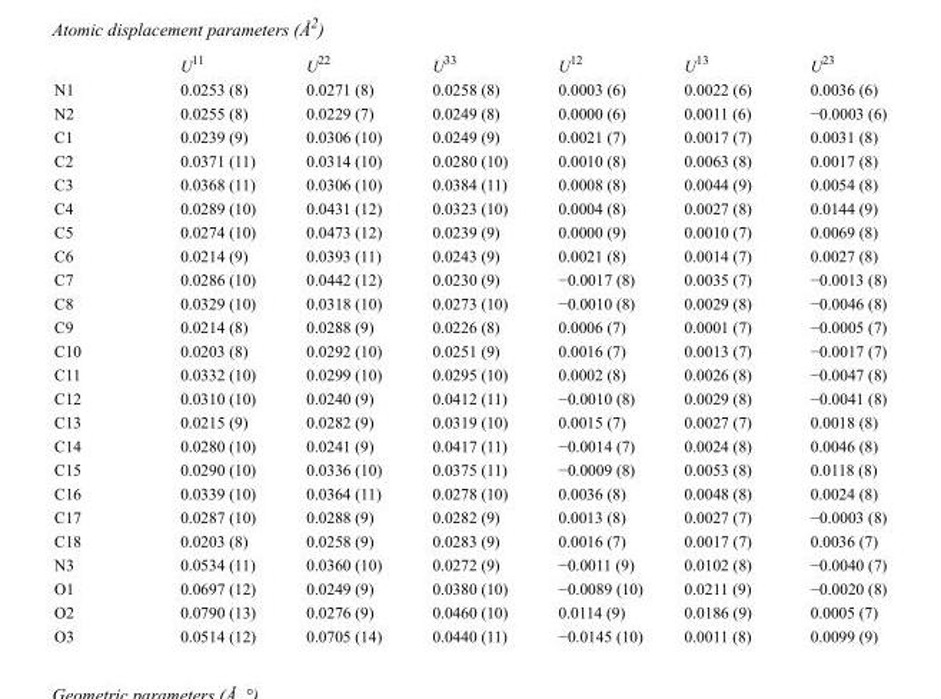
<table><thead><tr><td></td><td>U<sup>11</sup></td><td>U<sup>22</sup></td><td>U<sup>33</sup></td><td>U<sup>12</sup></td><td>U<sup>13</sup></td><td>U<sup>23</sup></td></tr></thead><tbody><tr><td>N1</td><td>0.0253 (8)</td><td>0.0271 (8)</td><td>0.0258 (8)</td><td>0.0003 (6)</td><td>0.0022 (6)</td><td>0.0036 (6)</td></tr><tr><td>N2</td><td>0.0255 (8)</td><td>0.0229 (7)</td><td>0.0249 (8)</td><td>0.0000 (6)</td><td>0.0011 (6)</td><td>−0.0003 (6)</td></tr><tr><td>C1</td><td>0.0239 (9)</td><td>0.0306 (10)</td><td>0.0249 (9)</td><td>0.0021 (7)</td><td>0.0017 (7)</td><td>0.0031 (8)</td></tr><tr><td>C2</td><td>0.0371 (11)</td><td>0.0314 (10)</td><td>0.0280 (10)</td><td>0.0010 (8)</td><td>0.0063 (8)</td><td>0.0017 (8)</td></tr><tr><td>C3</td><td>0.0368 (11)</td><td>0.0306 (10)</td><td>0.0384 (11)</td><td>0.0008 (8)</td><td>0.0044 (9)</td><td>0.0054 (8)</td></tr><tr><td>C4</td><td>0.0289 (10)</td><td>0.0431 (12)</td><td>0.0323 (10)</td><td>0.0004 (8)</td><td>0.0027 (8)</td><td>0.0144 (9)</td></tr><tr><td>C5</td><td>0.0274 (10)</td><td>0.0473 (12)</td><td>0.0239 (9)</td><td>0.0000 (9)</td><td>0.0010 (7)</td><td>0.0069 (8)</td></tr><tr><td>C6</td><td>0.0214 (9)</td><td>0.0393 (11)</td><td>0.0243 (9)</td><td>0.0021 (8)</td><td>0.0014 (7)</td><td>0.0027 (8)</td></tr><tr><td>C7</td><td>0.0286 (10)</td><td>0.0442 (12)</td><td>0.0230 (9)</td><td>−0.0017 (8)</td><td>0.0035 (7)</td><td>−0.0013 (8)</td></tr><tr><td>C8</td><td>0.0329 (10)</td><td>0.0318 (10)</td><td>0.0273 (10)</td><td>−0.0010 (8)</td><td>0.0029 (8)</td><td>−0.0046 (8)</td></tr><tr><td>C9</td><td>0.0214 (8)</td><td>0.0288 (9)</td><td>0.0226 (8)</td><td>0.0006 (7)</td><td>0.0001 (7)</td><td>−0.0005 (7)</td></tr><tr><td>C10</td><td>0.0203 (8)</td><td>0.0292 (10)</td><td>0.0251 (9)</td><td>0.0016 (7)</td><td>0.0013 (7)</td><td>−0.0017 (7)</td></tr><tr><td>C11</td><td>0.0332 (10)</td><td>0.0299 (10)</td><td>0.0295 (10)</td><td>0.0002 (8)</td><td>0.0026 (8)</td><td>−0.0047 (8)</td></tr><tr><td>C12</td><td>0.0310 (10)</td><td>0.0240 (9)</td><td>0.0412 (11)</td><td>−0.0010 (8)</td><td>0.0029 (8)</td><td>−0.0041 (8)</td></tr><tr><td>C13</td><td>0.0215 (9)</td><td>0.0282 (9)</td><td>0.0319 (10)</td><td>0.0015 (7)</td><td>0.0027 (7)</td><td>0.0018 (8)</td></tr><tr><td>C14</td><td>0.0280 (10)</td><td>0.0241 (9)</td><td>0.0417 (11)</td><td>−0.0014 (7)</td><td>0.0024 (8)</td><td>0.0046 (8)</td></tr><tr><td>C15</td><td>0.0290 (10)</td><td>0.0336 (10)</td><td>0.0375 (11)</td><td>−0.0009 (8)</td><td>0.0053 (8)</td><td>0.0118 (8)</td></tr><tr><td>C16</td><td>0.0339 (10)</td><td>0.0364 (11)</td><td>0.0278 (10)</td><td>0.0036 (8)</td><td>0.0048 (8)</td><td>0.0024 (8)</td></tr><tr><td>C17</td><td>0.0287 (10)</td><td>0.0288 (9)</td><td>0.0282 (9)</td><td>0.0013 (8)</td><td>0.0027 (7)</td><td>−0.0003 (8)</td></tr><tr><td>C18</td><td>0.0203 (8)</td><td>0.0258 (9)</td><td>0.0283 (9)</td><td>0.0016 (7)</td><td>0.0017 (7)</td><td>0.0036 (7)</td></tr><tr><td>N3</td><td>0.0534 (11)</td><td>0.0360 (10)</td><td>0.0272 (9)</td><td>−0.0011 (9)</td><td>0.0102 (8)</td><td>−0.0040 (7)</td></tr><tr><td>O1</td><td>0.0697 (12)</td><td>0.0249 (9)</td><td>0.0380 (10)</td><td>−0.0089 (10)</td><td>0.0211 (9)</td><td>−0.0020 (8)</td></tr><tr><td>O2</td><td>0.0790 (13)</td><td>0.0276 (9)</td><td>0.0460 (10)</td><td>0.0114 (9)</td><td>0.0186 (9)</td><td>0.0005 (7)</td></tr><tr><td>O3</td><td>0.0514 (12)</td><td>0.0705 (14)</td><td>0.0440 (11)</td><td>−0.0145 (10)</td><td>0.0011 (8)</td><td>0.0099 (9)</td></tr></tbody></table>